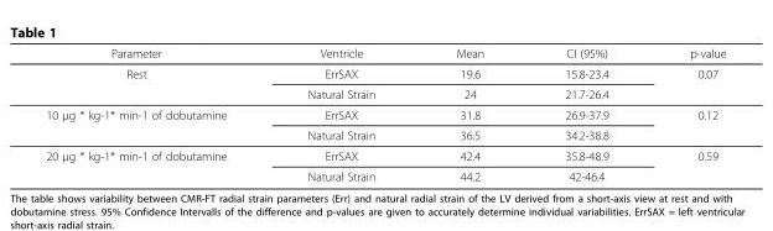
<table><thead><tr><td>Parameter</td><td>Ventricle</td><td>Mean</td><td>CI (95%)</td><td>p-value</td></tr></thead><tbody><tr><td rowspan="2">Rest</td><td>ErrSAX</td><td>19.6</td><td>15.8-23.4</td><td>0.07</td></tr><tr><td>Natural Strain</td><td>24</td><td>21.7-26.4</td><td></td></tr><tr><td rowspan="2">10 μg * kg-1* min-1 of dobutamine</td><td>ErrSAX</td><td>31.8</td><td>26.9-37.9</td><td>0.12</td></tr><tr><td>Natural Strain</td><td>36.5</td><td>34.2-38.8</td><td></td></tr><tr><td rowspan="2">20 μg * kg-1* min-1 of dobutamine</td><td>ErrSAX</td><td>42.4</td><td>35.8-48.9</td><td>0.59</td></tr><tr><td>Natural Strain</td><td>44.2</td><td>42-46.4</td><td></td></tr></tbody></table>